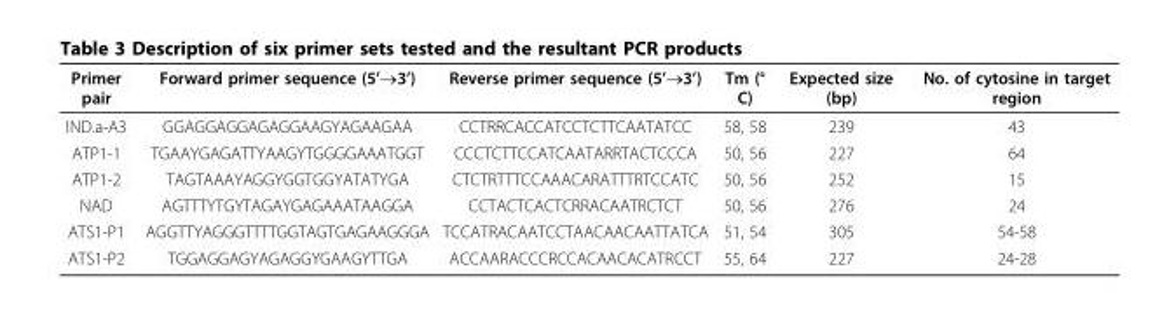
<table><thead><tr><td>Primer pair</td><td>Forward primer sequence (5’→3’)</td><td>Reverse primer sequence (5’→3’)</td><td>Tm (° C)</td><td>Expected size (bp)</td><td>No. of cytosine in target region</td></tr></thead><tbody><tr><td>IND.a-A3</td><td>GGAGGAGGAGAGGAAGYAGAAGAA</td><td>CCTRRCACCATCCTCTTCAATATCC</td><td>58, 58</td><td>239</td><td>43</td></tr><tr><td>ATP1-1</td><td>TGAAYGAGATTYAAGYTGGGGAAATGGT</td><td>CCCTCTTCCATCAATARRTACTCCCA</td><td>50, 56</td><td>227</td><td>64</td></tr><tr><td>ATP1-2</td><td>TAGTAAAYAGGYGGTGGYATATYGA</td><td>CTCTRTTTCCAAACARATTTRTCCATC</td><td>50, 56</td><td>252</td><td>15</td></tr><tr><td>NAD</td><td>AGTTTYTGYTAGAYGAGAAATAAGGA</td><td>CCTACTCACTCRRACAATRCTCT</td><td>50, 56</td><td>276</td><td>24</td></tr><tr><td>ATS1-P1</td><td>AGGTTYAGGGTTTTGGTAGTGAGAAGGGA</td><td>TCCATRACAATCCTAACAACAATTATCA</td><td>51, 54</td><td>305</td><td>54-58</td></tr><tr><td>ATS1-P2</td><td>TGGAGGAGYAGAGGYGAAGYTTGA</td><td>ACCAARACCCRCCACAACACATRCCT</td><td>55, 64</td><td>227</td><td>24-28</td></tr></tbody></table>